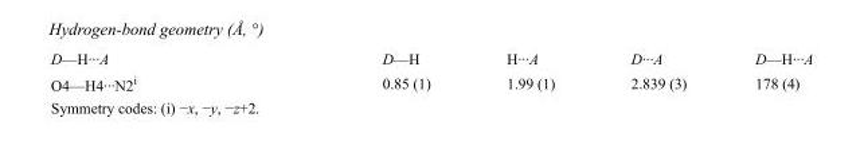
<table><tbody><tr><td>D—H···A</td><td>D—H</td><td>H···A</td><td>D···A</td><td>D—H···A</td></tr><tr><td>O4—H4···N2<sup>i</sup></td><td>0.85 (1)</td><td>1.99 (1)</td><td>2.839 (3)</td><td>178 (4)</td></tr></tbody></table>